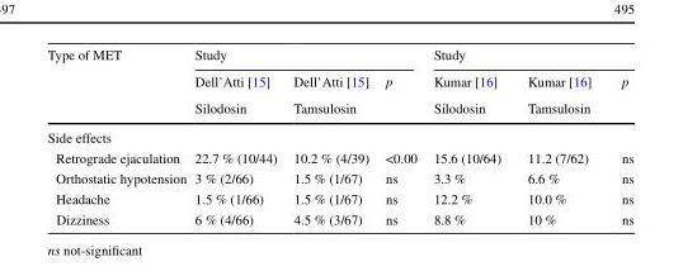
<table><thead><tr><td rowspan="3">Type of MET</td><td colspan="3">Study</td><td colspan="3">Study</td></tr><tr><td rowspan="2">Dell’Atti [15] Silodosin</td><td rowspan="2">Dell’Atti [15] Tamsulosin</td><td rowspan="2">p</td><td rowspan="2">Kumar [16] Silodosin</td><td rowspan="2">Kumar [16] Tamsulosin</td><td rowspan="2">p</td></tr><tr></tr></thead><tbody><tr><td colspan="7">Side effects</td></tr><tr><td>Retrograde ejaculation</td><td>22.7 % (10/44)</td><td>10.2 % (4/39)</td><td>&lt;0.00</td><td>15.6 (10/64)</td><td>11.2 (7/62)</td><td>ns</td></tr><tr><td>Orthostatic hypotension</td><td>3 % (2/66)</td><td>1.5 % (1/67)</td><td>ns</td><td>3.3 %</td><td>6.6 %</td><td>ns</td></tr><tr><td>Headache</td><td>1.5 % (1/66)</td><td>1.5 % (1/67)</td><td>ns</td><td>12.2 %</td><td>10.0 %</td><td>ns</td></tr><tr><td>Dizziness</td><td>6 % (4/66)</td><td>4.5 % (3/67)</td><td>ns</td><td>8.8 %</td><td>10 %</td><td>ns</td></tr></tbody></table>